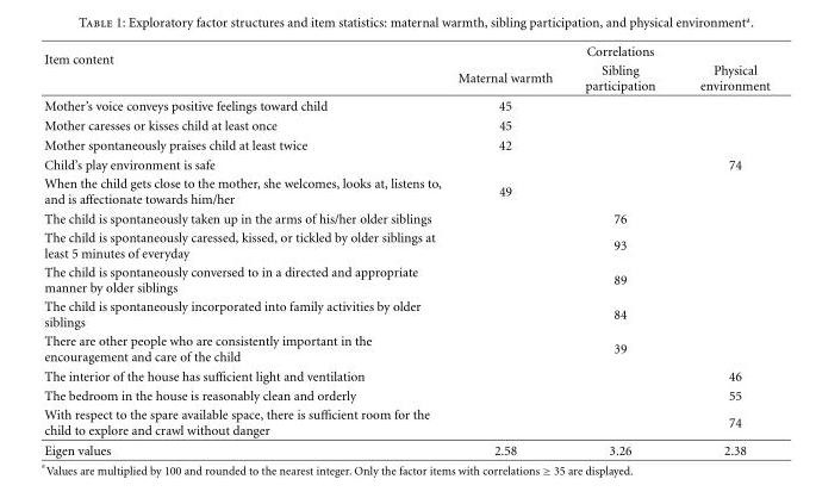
<table><thead><tr><td rowspan="2">Item content</td><td rowspan="2">Maternal warmth</td><td rowspan="2">Correlations Sibling participation</td><td rowspan="2">Physical environment</td></tr><tr></tr></thead><tbody><tr><td>Mother’s voice conveys positive feelings toward child</td><td>45</td><td></td><td></td></tr><tr><td>Mother caresses or kisses child at least once</td><td>45</td><td></td><td></td></tr><tr><td>Mother spontaneously praises child at least twice</td><td>42</td><td></td><td></td></tr><tr><td>Child’s play environment is safe</td><td></td><td></td><td>74</td></tr><tr><td>When the child gets close to the mother, she welcomes, looks at, listens to, and is affectionate towards him/her</td><td>49</td><td></td><td></td></tr><tr><td>The child is spontaneously taken up in the arms of his/her older siblings</td><td></td><td>76</td><td></td></tr><tr><td>The child is spontaneously caressed, kissed, or tickled by older siblings at least 5 minutes of everyday</td><td></td><td>93</td><td></td></tr><tr><td>The child is spontaneously conversed to in a directed and appropriate manner by older siblings</td><td></td><td>89</td><td></td></tr><tr><td>The child is spontaneously incorporated into family activities by older siblings</td><td></td><td>84</td><td></td></tr><tr><td>There are other people who are consistently important in the encouragement and care of the child</td><td></td><td>39</td><td></td></tr><tr><td>The interior of the house has sufficient light and ventilation</td><td></td><td></td><td>46</td></tr><tr><td>The bedroom in the house is reasonably clean and orderly</td><td></td><td></td><td>55</td></tr><tr><td>With respect to the spare available space, there is sufficient room for the child to explore and crawl without danger</td><td></td><td></td><td>74</td></tr><tr><td>Eigen values</td><td>2.58</td><td>3.26</td><td>2.38</td></tr></tbody></table>